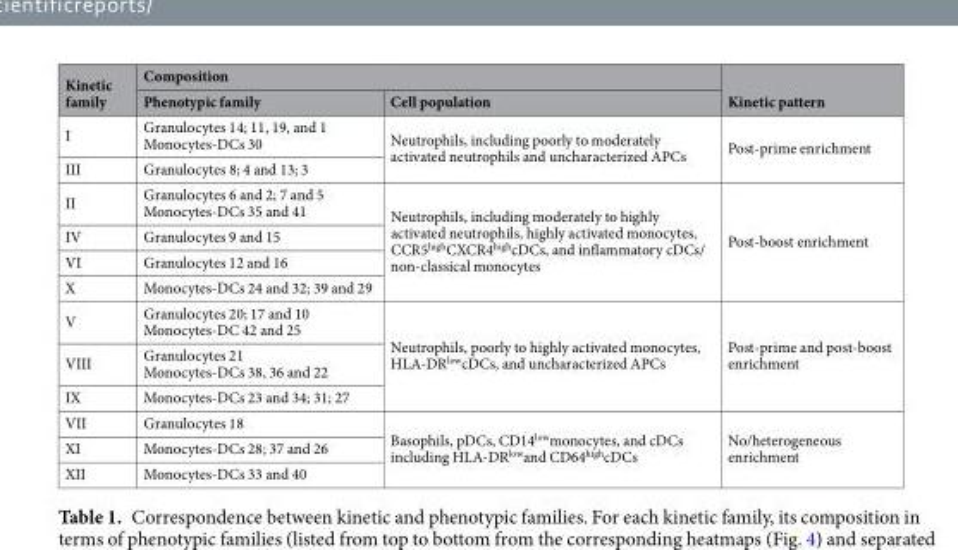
<table><thead><tr><td rowspan="2">Kinetic family</td><td colspan="2">Composition</td><td rowspan="2">Kinetic pattern</td></tr><tr><td>Phenotypic family</td><td>Cell population</td></tr></thead><tbody><tr><td>I</td><td>Granulocytes 14; 11, 19, and 1 Monocytes-DCs 30</td><td rowspan="2">Neutrophils, including poorly to moderately activated neutrophils and uncharacterized APCs</td><td rowspan="2">Post-prime enrichment</td></tr><tr><td>III</td><td>Granulocytes 8; 4 and 13; 3</td></tr><tr><td>II</td><td>Granulocytes 6 and 2; 7 and 5 Monocytes-DCs 35 and 41</td><td rowspan="4">Neutrophils, including moderately to highly activated neutrophils, highly activated monocytes, CCR5<sup>high</sup>CXCR4<sup>high</sup>cDCs, and inflammatory cDCs/ non-classical monocytes</td><td rowspan="4">Post-boost enrichment</td></tr><tr><td>IV</td><td>Granulocytes 9 and 15</td></tr><tr><td>VI</td><td>Granulocytes 12 and 16</td></tr><tr><td>X</td><td>Monocytes-DCs 24 and 32; 39 and 29</td></tr><tr><td>V</td><td>Granulocytes 20; 17 and 10 Monocytes-DC 42 and 25</td><td rowspan="3">Neutrophils, poorly to highly activated monocytes, HLA-DR<sup>low</sup>cDCs, and uncharacterized APCs</td><td rowspan="3">Post-prime and post-boost enrichment</td></tr><tr><td>VIII</td><td>Granulocytes 21 Monocytes-DCs 38, 36 and 22</td></tr><tr><td>IX</td><td>Monocytes-DCs 23 and 34; 31; 27</td></tr><tr><td>VII</td><td>Granulocytes 18</td><td rowspan="3">Basophils, pDCs, CD14<sup>low</sup>monocytes, and cDCs including HLA-DR<sup>low</sup>and CD64<sup>high</sup>cDCs</td><td rowspan="3">No/heterogeneous enrichment</td></tr><tr><td>XI</td><td>Monocytes-DCs 28; 37 and 26</td></tr><tr><td>XII</td><td>Monocytes-DCs 33 and 40</td></tr></tbody></table>